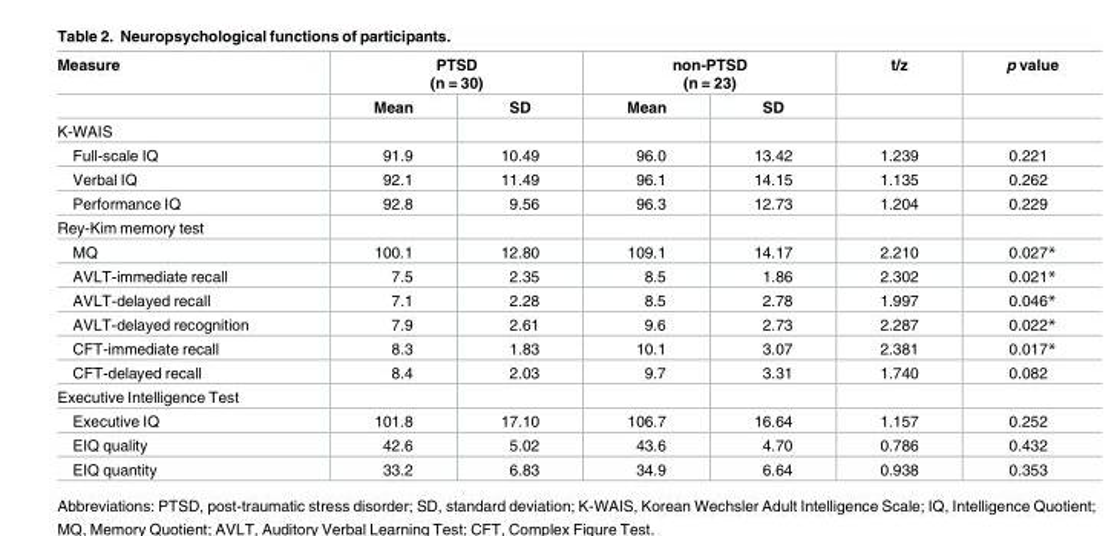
<table><thead><tr><td rowspan="2">Measure</td><td colspan="2">PTSD (n = 30)</td><td colspan="2">non-PTSD (n = 23)</td><td rowspan="2">t/z</td><td rowspan="2">p value</td></tr><tr><td>Mean</td><td>SD</td><td>Mean</td><td>SD</td></tr></thead><tbody><tr><td colspan="7">K-WAIS</td></tr><tr><td>Full-scale IQ</td><td>91.9</td><td>10.49</td><td>96.0</td><td>13.42</td><td>1.239</td><td>0.221</td></tr><tr><td>Verbal IQ</td><td>92.1</td><td>11.49</td><td>96.1</td><td>14.15</td><td>1.135</td><td>0.262</td></tr><tr><td>Performance IQ</td><td>92.8</td><td>9.56</td><td>96.3</td><td>12.73</td><td>1.204</td><td>0.229</td></tr><tr><td colspan="7">Rey-Kim memory test</td></tr><tr><td>MQ</td><td>100.1</td><td>12.80</td><td>109.1</td><td>14.17</td><td>2.210</td><td>0.027*</td></tr><tr><td>AVLT-immediate recall</td><td>7.5</td><td>2.35</td><td>8.5</td><td>1.86</td><td>2.302</td><td>0.021*</td></tr><tr><td>AVLT-delayed recall</td><td>7.1</td><td>2.28</td><td>8.5</td><td>2.78</td><td>1.997</td><td>0.046*</td></tr><tr><td>AVLT-delayed recognition</td><td>7.9</td><td>2.61</td><td>9.6</td><td>2.73</td><td>2.287</td><td>0.022*</td></tr><tr><td>CFT-immediate recall</td><td>8.3</td><td>1.83</td><td>10.1</td><td>3.07</td><td>2.381</td><td>0.017*</td></tr><tr><td>CFT-delayed recall</td><td>8.4</td><td>2.03</td><td>9.7</td><td>3.31</td><td>1.740</td><td>0.082</td></tr><tr><td colspan="7">Executive Intelligence Test</td></tr><tr><td>Executive IQ</td><td>101.8</td><td>17.10</td><td>106.7</td><td>16.64</td><td>1.157</td><td>0.252</td></tr><tr><td>EIQ quality</td><td>42.6</td><td>5.02</td><td>43.6</td><td>4.70</td><td>0.786</td><td>0.432</td></tr><tr><td>EIQ quantity</td><td>33.2</td><td>6.83</td><td>34.9</td><td>6.64</td><td>0.938</td><td>0.353</td></tr></tbody></table>